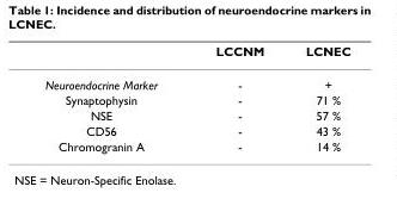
<table><thead><tr><td></td><td>LCCNM</td><td>LCNEC</td></tr></thead><tbody><tr><td>Neuroendocrine Marker</td><td>-</td><td>+</td></tr><tr><td>Synaptophysin</td><td>-</td><td>71 %</td></tr><tr><td>NSE</td><td>-</td><td>57 %</td></tr><tr><td>CD56</td><td>-</td><td>43 %</td></tr><tr><td>Chromogranin A</td><td>-</td><td>14 %</td></tr></tbody></table>